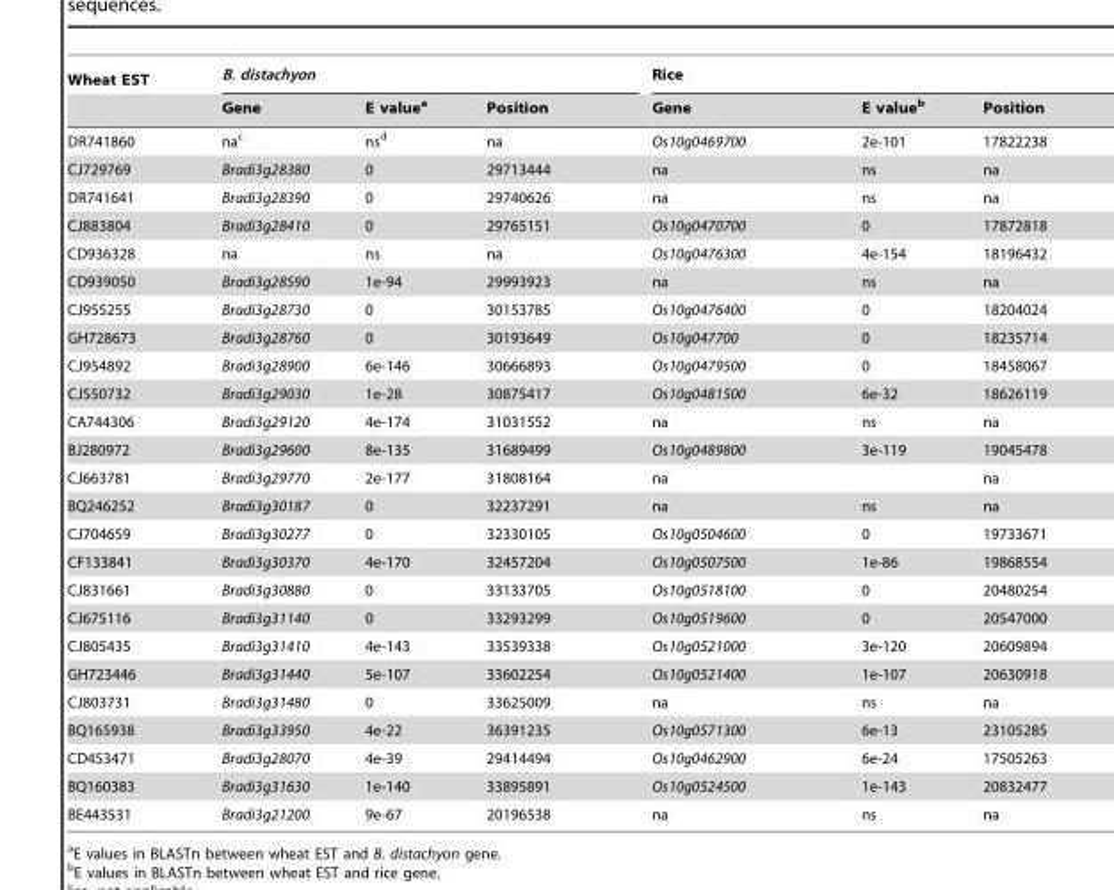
<table><thead><tr><td rowspan="2">Wheat EST</td><td colspan="3">B. distachyon</td><td colspan="3">Rice</td></tr><tr><td>Gene</td><td>E value<sup>a</sup></td><td>Position</td><td>Gene</td><td>E value<sup>b</sup></td><td>Position</td></tr></thead><tbody><tr><td>DR741860</td><td>na<sup>c</sup></td><td>ns<sup>d</sup></td><td>na</td><td>Os10g0469700</td><td>2e-101</td><td>17822238</td></tr><tr><td>CJ729769</td><td>Bradi3g28380</td><td>0</td><td>29713444</td><td>na</td><td>ns</td><td>na</td></tr><tr><td>DR741641</td><td>Bradi3g28390</td><td>0</td><td>29740626</td><td>na</td><td>ns</td><td>na</td></tr><tr><td>CJ883804</td><td>Bradi3g28410</td><td>0</td><td>29765151</td><td>Os10g0470700</td><td>0</td><td>17872818</td></tr><tr><td>CD936328</td><td>na</td><td>ns</td><td>na</td><td>Os10g0476300</td><td>4e-154</td><td>18196432</td></tr><tr><td>CD939050</td><td>Bradi3g28590</td><td>1e-94</td><td>29993923</td><td>na</td><td>ns</td><td>na</td></tr><tr><td>CJ955255</td><td>Bradi3g28730</td><td>0</td><td>30153785</td><td>Os10g0476400</td><td>0</td><td>18204024</td></tr><tr><td>GH728673</td><td>Bradi3g28760</td><td>0</td><td>30193649</td><td>Os10g047700</td><td>0</td><td>18235714</td></tr><tr><td>CJ954892</td><td>Bradi3g28900</td><td>6e-146</td><td>30666893</td><td>Os10g0479500</td><td>0</td><td>18458067</td></tr><tr><td>CJ550732</td><td>Bradi3g29030</td><td>1e-28</td><td>30875417</td><td>Os10g0481500</td><td>6e-32</td><td>18626119</td></tr><tr><td>CA744306</td><td>Bradi3g29120</td><td>4e-174</td><td>31031552</td><td>na</td><td>ns</td><td>na</td></tr><tr><td>BJ280972</td><td>Bradi3g29600</td><td>8e-135</td><td>31689499</td><td>Os10g0489800</td><td>3e-119</td><td>19045478</td></tr><tr><td>CJ663781</td><td>Bradi3g29770</td><td>2e-177</td><td>31808164</td><td>na</td><td></td><td>na</td></tr><tr><td>BQ246252</td><td>Bradi3g30187</td><td>0</td><td>32237291</td><td>na</td><td>ns</td><td>na</td></tr><tr><td>CJ704659</td><td>Bradi3g30277</td><td>0</td><td>32330105</td><td>Os10g0504600</td><td>0</td><td>19733671</td></tr><tr><td>CF133841</td><td>Bradi3g30370</td><td>4e-170</td><td>32457204</td><td>Os10g0507500</td><td>1e-86</td><td>19868554</td></tr><tr><td>CJ831661</td><td>Bradi3g30880</td><td>0</td><td>33133705</td><td>Os10g0518100</td><td>0</td><td>20480254</td></tr><tr><td>CJ675116</td><td>Bradi3g31140</td><td>0</td><td>33293299</td><td>Os10g0519600</td><td>0</td><td>20547000</td></tr><tr><td>CJ805435</td><td>Bradi3g31410</td><td>4e-143</td><td>33539338</td><td>Os10g0521000</td><td>3e-120</td><td>20609894</td></tr><tr><td>GH723446</td><td>Bradi3g31440</td><td>5e-107</td><td>33602254</td><td>Os10g0521400</td><td>1e-107</td><td>20630918</td></tr><tr><td>CJ803731</td><td>Bradi3g31480</td><td>0</td><td>33625009</td><td>na</td><td>ns</td><td>na</td></tr><tr><td>BQ165938</td><td>Bradi3g33950</td><td>4e-22</td><td>36391235</td><td>Os10g0571300</td><td>6e-13</td><td>23105285</td></tr><tr><td>CD453471</td><td>Bradi3g28070</td><td>4e-39</td><td>29414494</td><td>Os10g0462900</td><td>6e-24</td><td>17505263</td></tr><tr><td>BQ160383</td><td>Bradi3g31630</td><td>1e-140</td><td>33895891</td><td>Os10g0524500</td><td>1e-143</td><td>20832477</td></tr><tr><td>BE443531</td><td>Bradi3g21200</td><td>9e-67</td><td>20196538</td><td>na</td><td>ns</td><td>na</td></tr></tbody></table>